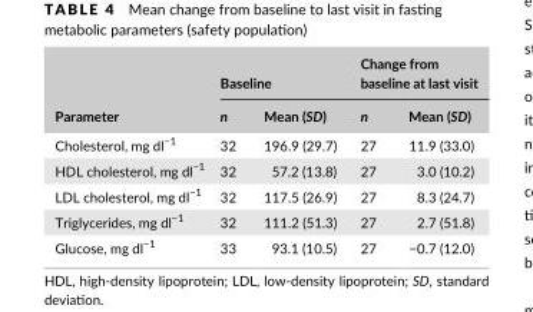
<table><thead><tr><td rowspan="2">Parameter</td><td colspan="2">Baseline</td><td colspan="2">Change from baseline at last visit</td></tr><tr><td>n</td><td>Mean (SD)</td><td>n</td><td>Mean (SD)</td></tr></thead><tbody><tr><td>Cholesterol, mg dl<sup>−1</sup></td><td>32</td><td>196.9 (29.7)</td><td>27</td><td>11.9 (33.0)</td></tr><tr><td>HDL cholesterol, mg dl<sup>−1</sup></td><td>32</td><td>57.2 (13.8)</td><td>27</td><td>3.0 (10.2)</td></tr><tr><td>LDL cholesterol, mg dl<sup>−1</sup></td><td>32</td><td>117.5 (26.9)</td><td>27</td><td>8.3 (24.7)</td></tr><tr><td>Triglycerides, mg dl<sup>−1</sup></td><td>32</td><td>111.2 (51.3)</td><td>27</td><td>2.7 (51.8)</td></tr><tr><td>Glucose, mg dl<sup>−1</sup></td><td>33</td><td>93.1 (10.5)</td><td>27</td><td>−0.7 (12.0)</td></tr></tbody></table>